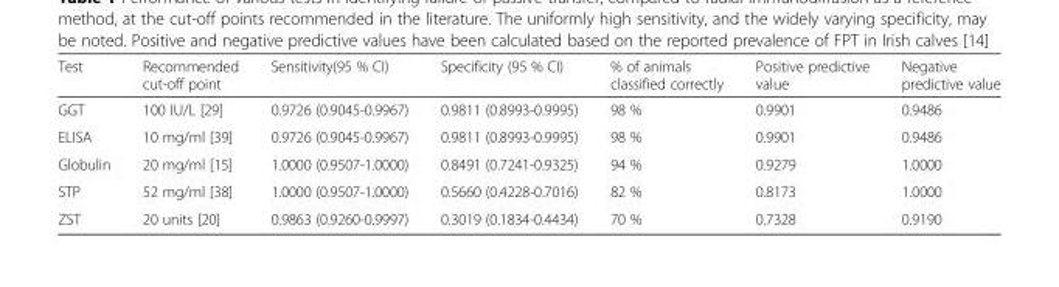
<table><thead><tr><td>Test</td><td>Recommended cut-off point</td><td>Sensitivity(95 % CI)</td><td>Specificity (95 % CI)</td><td>% of animals classified correctly</td><td>Positive predictive value</td><td>Negative predictive value</td></tr></thead><tbody><tr><td>GGT</td><td>100 IU/L [29]</td><td>0.9726 (0.9045-0.9967)</td><td>0.9811 (0.8993-0.9995)</td><td>98 %</td><td>0.9901</td><td>0.9486</td></tr><tr><td>ELISA</td><td>10 mg/ml [39]</td><td>0.9726 (0.9045-0.9967)</td><td>0.9811 (0.8993-0.9995)</td><td>98 %</td><td>0.9901</td><td>0.9486</td></tr><tr><td>Globulin</td><td>20 mg/ml [15]</td><td>1.0000 (0.9507-1.0000)</td><td>0.8491 (0.7241-0.9325)</td><td>94 %</td><td>0.9279</td><td>1.0000</td></tr><tr><td>STP</td><td>52 mg/ml [38]</td><td>1.0000 (0.9507-1.0000)</td><td>0.5660 (0.4228-0.7016)</td><td>82 %</td><td>0.8173</td><td>1.0000</td></tr><tr><td>ZST</td><td>20 units [20]</td><td>0.9863 (0.9260-0.9997)</td><td>0.3019 (0.1834-0.4434)</td><td>70 %</td><td>0.7328</td><td>0.9190</td></tr></tbody></table>